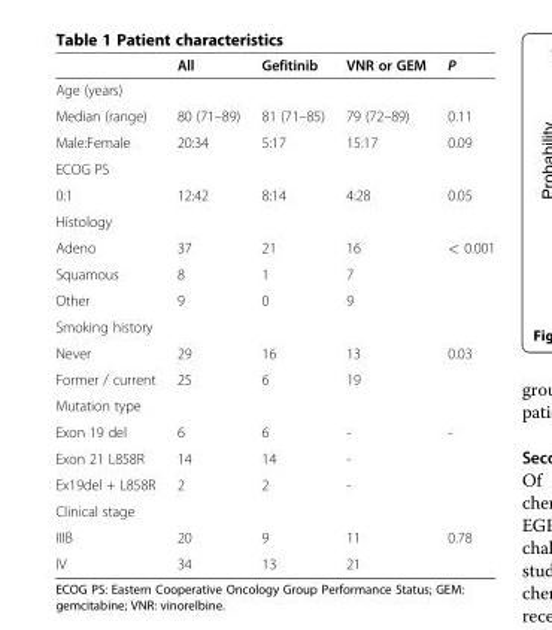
<table><thead><tr><td></td><td>All</td><td>Gefitinib</td><td>VNR or GEM</td><td>P</td></tr></thead><tbody><tr><td colspan="5">Age (years)</td></tr><tr><td>Median (range)</td><td>80 (71–89)</td><td>81 (71–85)</td><td>79 (72–89)</td><td>0.11</td></tr><tr><td>Male:Female</td><td>20:34</td><td>5:17</td><td>15:17</td><td>0.09</td></tr><tr><td colspan="5">ECOG PS</td></tr><tr><td>0:1</td><td>12:42</td><td>8:14</td><td>4:28</td><td>0.05</td></tr><tr><td colspan="5">Histology</td></tr><tr><td>Adeno</td><td>37</td><td>21</td><td>16</td><td>&lt; 0.001</td></tr><tr><td>Squamous</td><td>8</td><td>1</td><td>7</td><td></td></tr><tr><td>Other</td><td>9</td><td>0</td><td>9</td><td></td></tr><tr><td colspan="5">Smoking history</td></tr><tr><td>Never</td><td>29</td><td>16</td><td>13</td><td>0.03</td></tr><tr><td>Former / current</td><td>25</td><td>6</td><td>19</td><td></td></tr><tr><td colspan="5">Mutation type</td></tr><tr><td>Exon 19 del</td><td>6</td><td>6</td><td>-</td><td>-</td></tr><tr><td>Exon 21 L858R</td><td>14</td><td>14</td><td>-</td><td></td></tr><tr><td>Ex19del + L858R</td><td>2</td><td>2</td><td>-</td><td></td></tr><tr><td colspan="5">Clinical stage</td></tr><tr><td>IIIB</td><td>20</td><td>9</td><td>11</td><td>0.78</td></tr><tr><td>IV</td><td>34</td><td>13</td><td>21</td><td></td></tr></tbody></table>